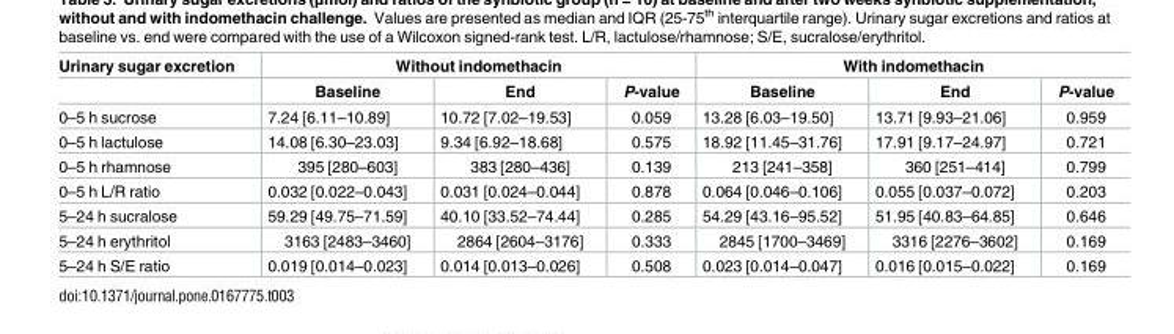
<table><thead><tr><td rowspan="2">Urinary sugar excretion</td><td colspan="3">Without indomethacin</td><td colspan="3">With indomethacin</td></tr><tr><td>Baseline</td><td>End</td><td>P-value</td><td>Baseline</td><td>End</td><td>P-value</td></tr></thead><tbody><tr><td>0–5 h sucrose</td><td>7.24 [6.11–10.89]</td><td>10.72 [7.02–19.53]</td><td>0.059</td><td>13.28 [6.03–19.50]</td><td>13.71 [9.93–21.06]</td><td>0.959</td></tr><tr><td>0–5 h lactulose</td><td>14.08 [6.30–23.03]</td><td>9.34 [6.92–18.68]</td><td>0.575</td><td>18.92 [11.45–31.76]</td><td>17.91 [9.17–24.97]</td><td>0.721</td></tr><tr><td>0–5 h rhamnose</td><td>395 [280–603]</td><td>383 [280–436]</td><td>0.139</td><td>213 [241–358]</td><td>360 [251–414]</td><td>0.799</td></tr><tr><td>0–5 h L/R ratio</td><td>0.032 [0.022–0.043]</td><td>0.031 [0.024–0.044]</td><td>0.878</td><td>0.064 [0.046–0.106]</td><td>0.055 [0.037–0.072]</td><td>0.203</td></tr><tr><td>5–24 h sucralose</td><td>59.29 [49.75–71.59]</td><td>40.10 [33.52–74.44]</td><td>0.285</td><td>54.29 [43.16–95.52]</td><td>51.95 [40.83–64.85]</td><td>0.646</td></tr><tr><td>5–24 h erythritol</td><td>3163 [2483–3460]</td><td>2864 [2604–3176]</td><td>0.333</td><td>2845 [1700–3469]</td><td>3316 [2276–3602]</td><td>0.169</td></tr><tr><td>5–24 h S/E ratio</td><td>0.019 [0.014–0.023]</td><td>0.014 [0.013–0.026]</td><td>0.508</td><td>0.023 [0.014–0.047]</td><td>0.016 [0.015–0.022]</td><td>0.169</td></tr></tbody></table>